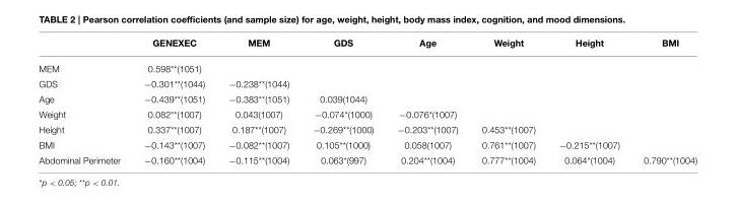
<table><thead><tr><td></td><td>GENEXEC</td><td>MEM</td><td>GDS</td><td>Age</td><td>Weight</td><td>Height</td><td>BMI</td></tr></thead><tbody><tr><td>MEM</td><td>0.598**(1051)</td><td></td><td></td><td></td><td></td><td></td><td></td></tr><tr><td>GDS</td><td>−0.301**(1044)</td><td>−0.238**(1044)</td><td></td><td></td><td></td><td></td><td></td></tr><tr><td>Age</td><td>−0.439**(1051)</td><td>−0.383**(1051)</td><td>0.039(1044)</td><td></td><td></td><td></td><td></td></tr><tr><td>Weight</td><td>0.082**(1007)</td><td>0.043(1007)</td><td>−0.074*(1000)</td><td>−0.076*(1007)</td><td></td><td></td><td></td></tr><tr><td>Height</td><td>0.337**(1007)</td><td>0.187**(1007)</td><td>−0.269**(1000)</td><td>−0.203**(1007)</td><td>0.453**(1007)</td><td></td><td></td></tr><tr><td>BMI</td><td>−0.143**(1007)</td><td>−0.082**(1007)</td><td>0.105**(1000)</td><td>0.058(1007)</td><td>0.761**(1007)</td><td>−0.215**(1007)</td><td></td></tr><tr><td>Abdominal Perimeter</td><td>−0.160**(1004)</td><td>−0.115**(1004)</td><td>0.063*(997)</td><td>0.204**(1004)</td><td>0.777**(1004)</td><td>0.064*(1004)</td><td>0.790**(1004)</td></tr></tbody></table>